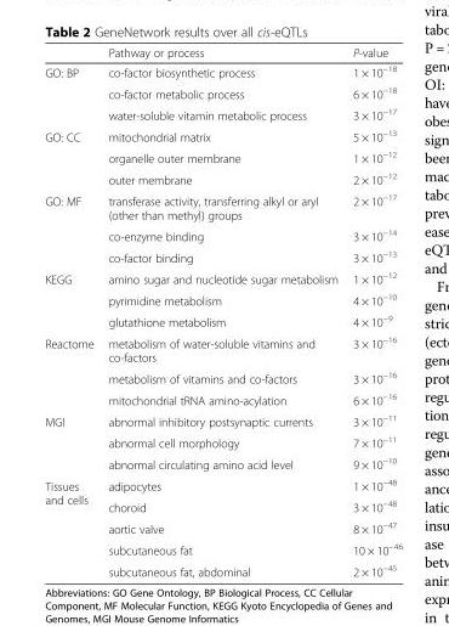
<table><thead><tr><td></td><td>Pathway or process</td><td>P-value</td></tr></thead><tbody><tr><td rowspan="3">GO: BP</td><td>co-factor biosynthetic process</td><td>1 × 10<sup>−18</sup></td></tr><tr><td>co-factor metabolic process</td><td>6 × 10<sup>−18</sup></td></tr><tr><td>water-soluble vitamin metabolic process</td><td>3 × 10<sup>−17</sup></td></tr><tr><td rowspan="3">GO: CC</td><td>mitochondrial matrix</td><td>5 × 10<sup>−13</sup></td></tr><tr><td>organelle outer membrane</td><td>1 × 10<sup>−12</sup></td></tr><tr><td>outer membrane</td><td>2 × 10<sup>−12</sup></td></tr><tr><td rowspan="3">GO: MF</td><td>transferase activity, transferring alkyl or aryl (other than methyl) groups</td><td>2 × 10<sup>−17</sup></td></tr><tr><td>co-enzyme binding</td><td>3 × 10<sup>−14</sup></td></tr><tr><td>co-factor binding</td><td>3 × 10<sup>−13</sup></td></tr><tr><td rowspan="3">KEGG</td><td>amino sugar and nucleotide sugar metabolism</td><td>1 × 10<sup>−12</sup></td></tr><tr><td>pyrimidine metabolism</td><td>4 × 10<sup>−10</sup></td></tr><tr><td>glutathione metabolism</td><td>4 × 10<sup>−9</sup></td></tr><tr><td rowspan="3">Reactome</td><td>metabolism of water-soluble vitamins and co-factors</td><td>3 × 10<sup>−16</sup></td></tr><tr><td>metabolism of vitamins and co-factors</td><td>3 × 10<sup>−16</sup></td></tr><tr><td>mitochondrial tRNA amino-acylation</td><td>6 × 10<sup>−16</sup></td></tr><tr><td rowspan="3">MGI</td><td>abnormal inhibitory postsynaptic currents</td><td>3 × 10<sup>−11</sup></td></tr><tr><td>abnormal cell morphology</td><td>7 × 10<sup>−11</sup></td></tr><tr><td>abnormal circulating amino acid level</td><td>9 × 10<sup>−10</sup></td></tr><tr><td rowspan="5">Tissues and cells</td><td>adipocytes</td><td>1 × 10<sup>−48</sup></td></tr><tr><td>choroid</td><td>3 × 10<sup>−48</sup></td></tr><tr><td>aortic valve</td><td>8 × 10<sup>−47</sup></td></tr><tr><td>subcutaneous fat</td><td>10 × 10<sup>−46</sup></td></tr><tr><td>subcutaneous fat, abdominal</td><td>2 × 10<sup>−45</sup></td></tr></tbody></table>